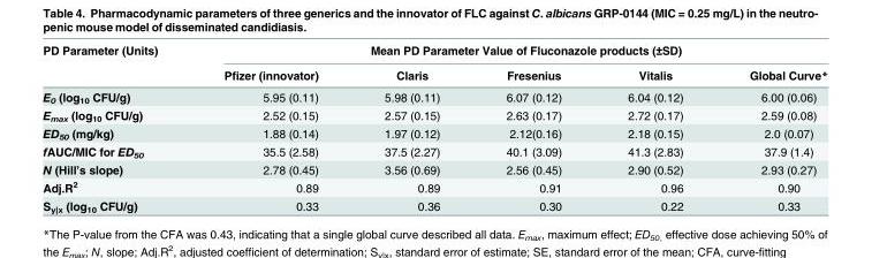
<table><thead><tr><td rowspan="2">PD Parameter (Units)</td><td colspan="5">Mean PD Parameter Value of Fluconazole products (±SD)</td></tr><tr><td>Pfizer (innovator)</td><td>Claris</td><td>Fresenius</td><td>Vitalis</td><td>Global Curve*</td></tr></thead><tbody><tr><td>E<sub>0</sub> (log<sub>10</sub> CFU/g)</td><td>5.95 (0.11)</td><td>5.98 (0.11)</td><td>6.07 (0.12)</td><td>6.04 (0.12)</td><td>6.00 (0.06)</td></tr><tr><td>E<sub>max</sub> (log<sub>10</sub> CFU/g)</td><td>2.52 (0.15)</td><td>2.57 (0.15)</td><td>2.63 (0.17)</td><td>2.72 (0.17)</td><td>2.59 (0.08)</td></tr><tr><td>ED<sub>50</sub> (mg/kg)</td><td>1.88 (0.14)</td><td>1.97 (0.12)</td><td>2.12(0.16)</td><td>2.18 (0.15)</td><td>2.0 (0.07)</td></tr><tr><td>fAUC/MIC for ED<sub>50</sub></td><td>35.5 (2.58)</td><td>37.5 (2.27)</td><td>40.1 (3.09)</td><td>41.3 (2.83)</td><td>37.9 (1.4)</td></tr><tr><td>N (Hill’s slope)</td><td>2.78 (0.45)</td><td>3.56 (0.69)</td><td>2.56 (0.45)</td><td>2.90 (0.52)</td><td>2.93 (0.27)</td></tr><tr><td>Adj.R<sup>2</sup></td><td>0.89</td><td>0.89</td><td>0.91</td><td>0.96</td><td>0.90</td></tr><tr><td>S<sub>y|x</sub> (log<sub>10</sub> CFU/g)</td><td>0.33</td><td>0.36</td><td>0.30</td><td>0.22</td><td>0.33</td></tr></tbody></table>